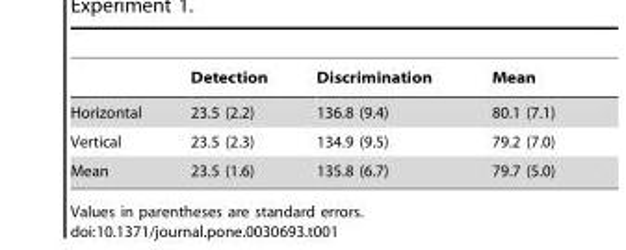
<table><thead><tr><td></td><td>Detection</td><td>Discrimination</td><td>Mean</td></tr></thead><tbody><tr><td>Horizontal</td><td>23.5 (2.2)</td><td>136.8 (9.4)</td><td>80.1 (7.1)</td></tr><tr><td>Vertical</td><td>23.5 (2.3)</td><td>134.9 (9.5)</td><td>79.2 (7.0)</td></tr><tr><td>Mean</td><td>23.5 (1.6)</td><td>135.8 (6.7)</td><td>79.7 (5.0)</td></tr></tbody></table>